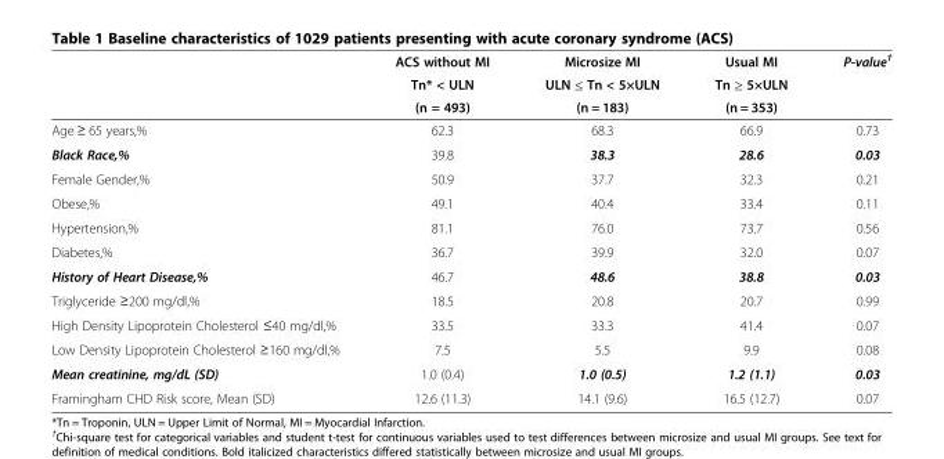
<table><thead><tr><td rowspan="3"></td><td rowspan="3">ACS without MI Tn* &lt; ULN (n = 493)</td><td rowspan="3">Microsize MI ULN ≤ Tn &lt; 5×ULN (n = 183)</td><td rowspan="3">Usual MI Tn ≥ 5×ULN (n = 353)</td><td rowspan="3">P-value<sup>†</sup></td></tr><tr></tr><tr></tr></thead><tbody><tr><td>Age ≥ 65 years,%</td><td>62.3</td><td>68.3</td><td>66.9</td><td>0.73</td></tr><tr><td>Black Race,%</td><td>39.8</td><td>38.3</td><td>28.6</td><td>0.03</td></tr><tr><td>Female Gender,%</td><td>50.9</td><td>37.7</td><td>32.3</td><td>0.21</td></tr><tr><td>Obese,%</td><td>49.1</td><td>40.4</td><td>33.4</td><td>0.11</td></tr><tr><td>Hypertension,%</td><td>81.1</td><td>76.0</td><td>73.7</td><td>0.56</td></tr><tr><td>Diabetes,%</td><td>36.7</td><td>39.9</td><td>32.0</td><td>0.07</td></tr><tr><td>History of Heart Disease,%</td><td>46.7</td><td>48.6</td><td>38.8</td><td>0.03</td></tr><tr><td>Triglyceride ≥200 mg/dl,%</td><td>18.5</td><td>20.8</td><td>20.7</td><td>0.99</td></tr><tr><td>High Density Lipoprotein Cholesterol ≤40 mg/dl,%</td><td>33.5</td><td>33.3</td><td>41.4</td><td>0.07</td></tr><tr><td>Low Density Lipoprotein Cholesterol ≥160 mg/dl,%</td><td>7.5</td><td>5.5</td><td>9.9</td><td>0.08</td></tr><tr><td>Mean creatinine, mg/dL (SD)</td><td>1.0 (0.4)</td><td>1.0 (0.5)</td><td>1.2 (1.1)</td><td>0.03</td></tr><tr><td>Framingham CHD Risk score, Mean (SD)</td><td>12.6 (11.3)</td><td>14.1 (9.6)</td><td>16.5 (12.7)</td><td>0.07</td></tr></tbody></table>